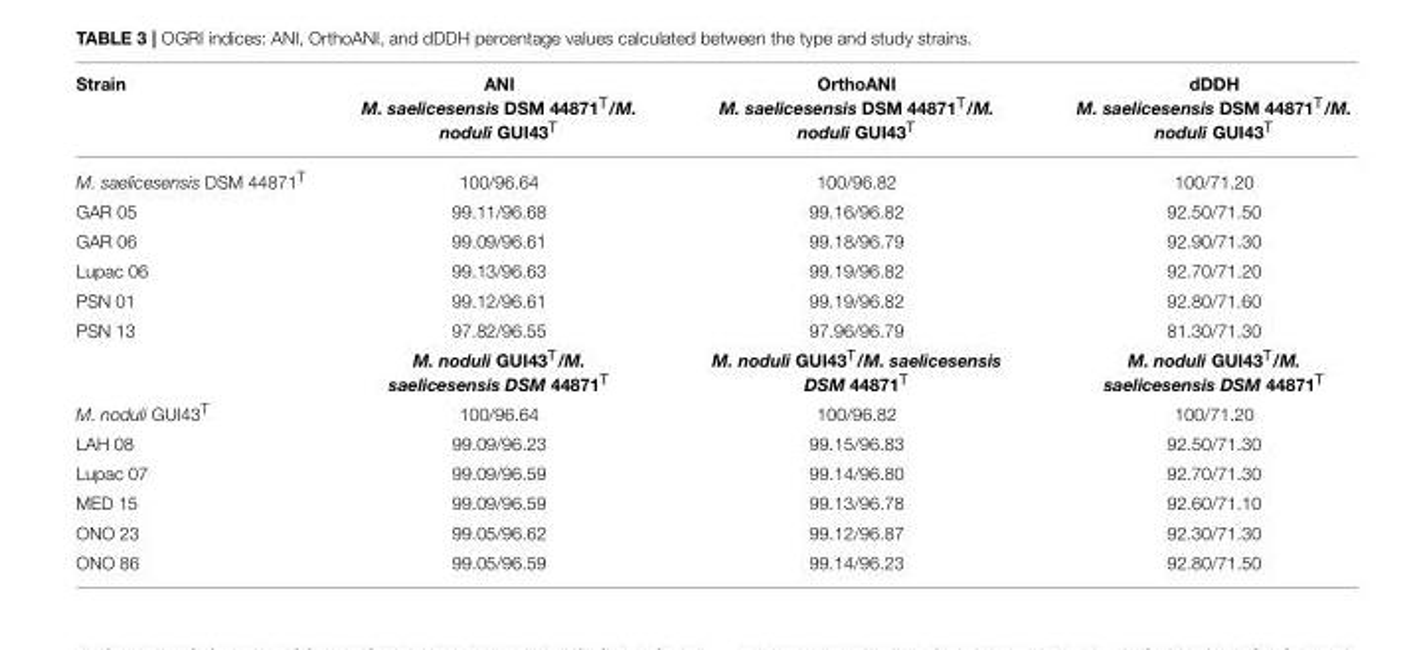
<table><thead><tr><td>Strain</td><td>ANI M. saelicesensis DSM 44871<sup>T</sup>/M. noduli GUI43<sup>T</sup></td><td>OrthoANI M. saelicesensis DSM 44871<sup>T</sup>/M. noduli GUI43<sup>T</sup></td><td>dDDH M. saelicesensis DSM 44871<sup>T</sup>/M. noduli GUI43<sup>T</sup></td></tr></thead><tbody><tr><td>M. saelicesensis DSM 44871<sup>T</sup></td><td>100/96.64</td><td>100/96.82</td><td>100/71.20</td></tr><tr><td>GAR 05</td><td>99.11/96.68</td><td>99.16/96.82</td><td>92.50/71.50</td></tr><tr><td>GAR 06</td><td>99.09/96.61</td><td>99.18/96.79</td><td>92.90/71.30</td></tr><tr><td>Lupac 06</td><td>99.13/96.63</td><td>99.19/96.82</td><td>92.70/71.20</td></tr><tr><td>PSN 01</td><td>99.12/96.61</td><td>99.19/96.82</td><td>92.80/71.60</td></tr><tr><td rowspan="2">PSN 13</td><td>97.82/96.55</td><td>97.96/96.79</td><td>81.30/71.30</td></tr><tr><td>M. noduli GUI43<sup>T</sup>/M. saelicesensis DSM 44871<sup>T</sup></td><td>M. noduli GUI43<sup>T</sup>/M. saelicesensis DSM 44871<sup>T</sup></td><td>M. noduli GUI43<sup>T</sup>/M. saelicesensis DSM 44871<sup>T</sup></td></tr><tr><td>M. noduli GUI43<sup>T</sup></td><td>100/96.64</td><td>100/96.82</td><td>100/71.20</td></tr><tr><td>LAH 08</td><td>99.09/96.23</td><td>99.15/96.83</td><td>92.50/71.30</td></tr><tr><td>Lupac 07</td><td>99.09/96.59</td><td>99.14/96.80</td><td>92.70/71.30</td></tr><tr><td>MED 15</td><td>99.09/96.59</td><td>99.13/96.78</td><td>92.60/71.10</td></tr><tr><td>ONO 23</td><td>99.05/96.62</td><td>99.12/96.87</td><td>92.30/71.30</td></tr><tr><td>ONO 86</td><td>99.05/96.59</td><td>99.14/96.23</td><td>92.80/71.50</td></tr></tbody></table>